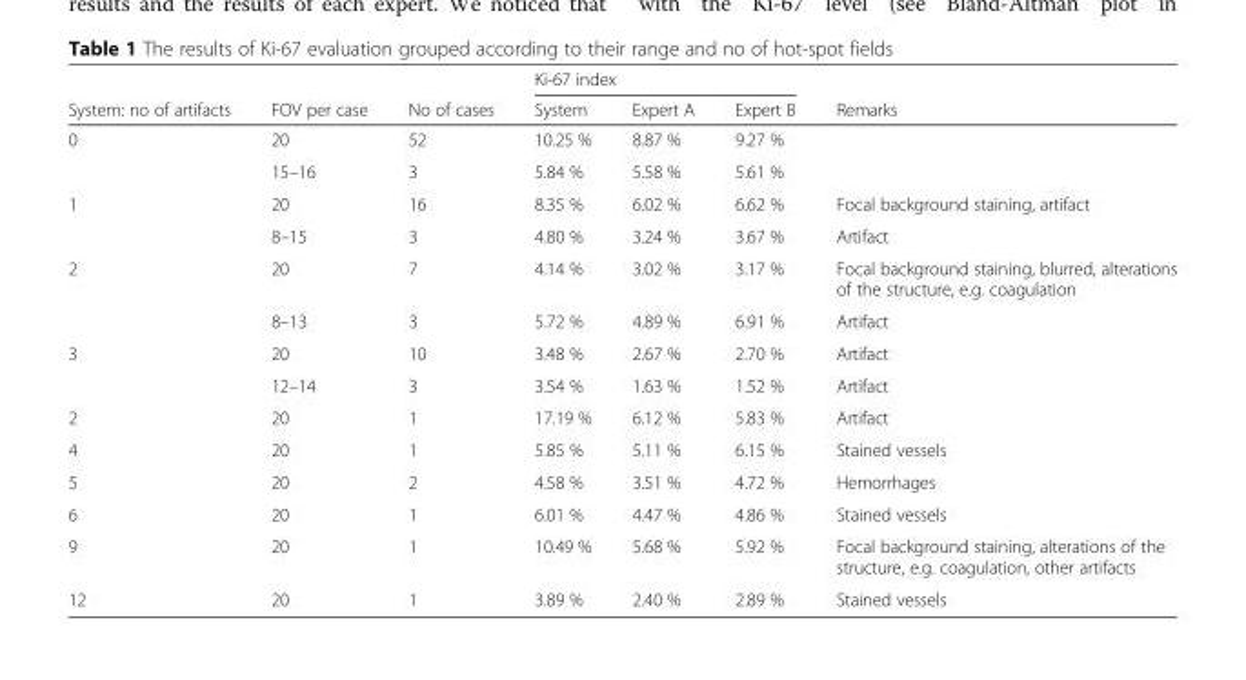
<table><thead><tr><td rowspan="2">System: no of artifacts</td><td rowspan="2">FOV per case</td><td rowspan="2">No of cases</td><td colspan="3">Ki-67 index</td><td rowspan="2">Remarks</td></tr><tr><td>System</td><td>Expert A</td><td>Expert B</td></tr></thead><tbody><tr><td rowspan="2">0</td><td>20</td><td>52</td><td>10.25 %</td><td>8.87 %</td><td>9.27 %</td><td></td></tr><tr><td>15–16</td><td>3</td><td>5.84 %</td><td>5.58 %</td><td>5.61 %</td><td></td></tr><tr><td rowspan="2">1</td><td>20</td><td>16</td><td>8.35 %</td><td>6.02 %</td><td>6.62 %</td><td>Focal background staining, artifact</td></tr><tr><td>8–15</td><td>3</td><td>4.80 %</td><td>3.24 %</td><td>3.67 %</td><td>Artifact</td></tr><tr><td rowspan="2">2</td><td>20</td><td>7</td><td>4.14 %</td><td>3.02 %</td><td>3.17 %</td><td>Focal background staining, blurred, alterations of the structure, e.g. coagulation</td></tr><tr><td>8–13</td><td>3</td><td>5.72 %</td><td>4.89 %</td><td>6.91 %</td><td>Artifact</td></tr><tr><td rowspan="2">3</td><td>20</td><td>10</td><td>3.48 %</td><td>2.67 %</td><td>2.70 %</td><td>Artifact</td></tr><tr><td>12–14</td><td>3</td><td>3.54 %</td><td>1.63 %</td><td>1.52 %</td><td>Artifact</td></tr><tr><td>2</td><td>20</td><td>1</td><td>17.19 %</td><td>6.12 %</td><td>5.83 %</td><td>Artifact</td></tr><tr><td>4</td><td>20</td><td>1</td><td>5.85 %</td><td>5.11 %</td><td>6.15 %</td><td>Stained vessels</td></tr><tr><td>5</td><td>20</td><td>2</td><td>4.58 %</td><td>3.51 %</td><td>4.72 %</td><td>Hemorrhages</td></tr><tr><td>6</td><td>20</td><td>1</td><td>6.01 %</td><td>4.47 %</td><td>4.86 %</td><td>Stained vessels</td></tr><tr><td>9</td><td>20</td><td>1</td><td>10.49 %</td><td>5.68 %</td><td>5.92 %</td><td>Focal background staining, alterations of the structure, e.g. coagulation, other artifacts</td></tr><tr><td>12</td><td>20</td><td>1</td><td>3.89 %</td><td>2.40 %</td><td>2.89 %</td><td>Stained vessels</td></tr></tbody></table>